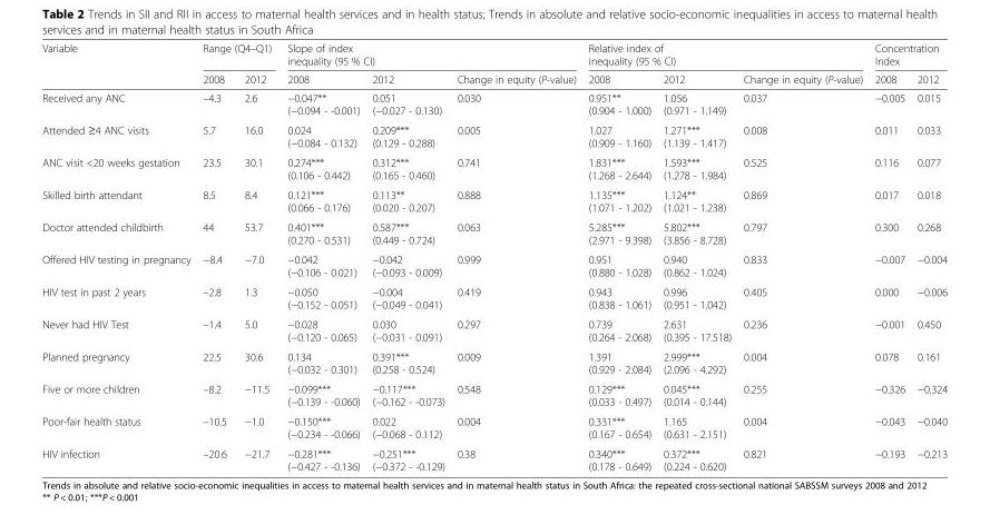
<table><thead><tr><td rowspan="2">Variable</td><td colspan="2">Range (Q4–Q1)</td><td colspan="3">Slope of index inequality (95 % CI)</td><td colspan="3">Relative index of inequality (95 % CI)</td><td colspan="2">Concentration Index</td></tr><tr><td>2008</td><td>2012</td><td>2008</td><td>2012</td><td>Change in equity (P-value)</td><td>2008</td><td>2012</td><td>Change in equity (P-value)</td><td>2008</td><td>2012</td></tr></thead><tbody><tr><td>Received any ANC</td><td>–4.3</td><td>2.6</td><td>−0.047** (−0.094 - -0.001)</td><td>0.051 (−0.027 - 0.130)</td><td>0.030</td><td>0.951** (0.904 - 1.000)</td><td>1.056 (0.971 - 1.149)</td><td>0.037</td><td>−0.005</td><td>0.015</td></tr><tr><td>Attended ≥4 ANC visits</td><td>5.7</td><td>16.0</td><td>0.024 (−0.084 - 0.132)</td><td>0.209*** (0.129 - 0.288)</td><td>0.005</td><td>1.027 (0.909 - 1.160)</td><td>1.271*** (1.139 - 1.417)</td><td>0.008</td><td>0.011</td><td>0.033</td></tr><tr><td>ANC visit &lt;20 weeks gestation</td><td>23.5</td><td>30.1</td><td>0.274*** (0.106 - 0.442)</td><td>0.312*** (0.165 - 0.460)</td><td>0.741</td><td>1.831*** (1.268 - 2.644)</td><td>1.593*** (1.278 - 1.984)</td><td>0.525</td><td>0.116</td><td>0.077</td></tr><tr><td>Skilled birth attendant</td><td>8.5</td><td>8.4</td><td>0.121*** (0.066 - 0.176)</td><td>0.113** (0.020 - 0.207)</td><td>0.888</td><td>1.135*** (1.071 - 1.202)</td><td>1.124** (1.021 - 1.238)</td><td>0.869</td><td>0.017</td><td>0.018</td></tr><tr><td>Doctor attended childbirth</td><td>44</td><td>53.7</td><td>0.401*** (0.270 - 0.531)</td><td>0.587*** (0.449 - 0.724)</td><td>0.063</td><td>5.285*** (2.971 - 9.398)</td><td>5.802*** (3.856 - 8.728)</td><td>0.797</td><td>0.300</td><td>0.268</td></tr><tr><td>Offered HIV testing in pregnancy</td><td>−8.4</td><td>−7.0</td><td>−0.042 (−0.106 - 0.021)</td><td>−0.042 (−0.093 - 0.009)</td><td>0.999</td><td>0.951 (0.880 - 1.028)</td><td>0.940 (0.862 - 1.024)</td><td>0.833</td><td>−0.007</td><td>−0.004</td></tr><tr><td>HIV test in past 2 years</td><td>–2.8</td><td>1.3</td><td>−0.050 (−0.152 - 0.051)</td><td>−0.004 (−0.049 - 0.041)</td><td>0.419</td><td>0.943 (0.838 - 1.061)</td><td>0.996 (0.951 - 1.042)</td><td>0.405</td><td>0.000</td><td>−0.006</td></tr><tr><td>Never had HIV Test</td><td>–1.4</td><td>5.0</td><td>−0.028 (−0.120 - 0.065)</td><td>0.030 (−0.031 - 0.091)</td><td>0.297</td><td>0.739 (0.264 - 2.068)</td><td>2.631 (0.395 - 17.518)</td><td>0.236</td><td>−0.001</td><td>0.450</td></tr><tr><td>Planned pregnancy</td><td>22.5</td><td>30.6</td><td>0.134 (−0.032 - 0.301)</td><td>0.391*** (0.258 - 0.524)</td><td>0.009</td><td>1.391 (0.929 - 2.084)</td><td>2.999*** (2.096 - 4.292)</td><td>0.004</td><td>0.078</td><td>0.161</td></tr><tr><td>Five or more children</td><td>–8.2</td><td>−11.5</td><td>−0.099*** (−0.139 - -0.060)</td><td>−0.117*** (−0.162 - -0.073)</td><td>0.548</td><td>0.129*** (0.033 - 0.497)</td><td>0.045*** (0.014 - 0.144)</td><td>0.255</td><td>−0.326</td><td>−0.324</td></tr><tr><td>Poor-fair health status</td><td>–10.5</td><td>−1.0</td><td>−0.150*** (−0.234 - -0.066)</td><td>0.022 (−0.068 - 0.112)</td><td>0.004</td><td>0.331*** (0.167 - 0.654)</td><td>1.165 (0.631 - 2.151)</td><td>0.004</td><td>−0.043</td><td>−0.040</td></tr><tr><td>HIV infection</td><td>–20.6</td><td>−21.7</td><td>−0.281*** (−0.427 - -0.136)</td><td>−0.251*** (−0.372 - -0.129)</td><td>0.38</td><td>0.340*** (0.178 - 0.649)</td><td>0.372*** (0.224 - 0.620)</td><td>0.821</td><td>−0.193</td><td>−0.213</td></tr></tbody></table>